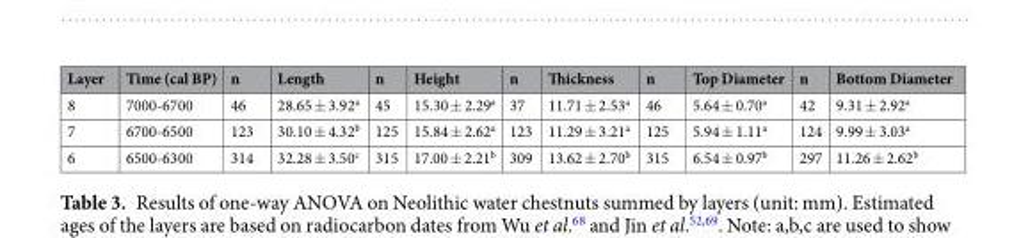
<table><thead><tr><td>Layer</td><td>Time (cal BP)</td><td>n</td><td>Length</td><td>n</td><td>Height</td><td>n</td><td>Thickness</td><td>n</td><td>Top Diameter</td><td>n</td><td>Bottom Diameter</td></tr></thead><tbody><tr><td>8</td><td>7000-6700</td><td>46</td><td>28.65 ± 3.92<sup>a</sup></td><td>45</td><td>15.30 ± 2.29<sup>a</sup></td><td>37</td><td>11.71 ± 2.53<sup>a</sup></td><td>46</td><td>5.64 ± 0.70<sup>a</sup></td><td>42</td><td>9.31 ± 2.92<sup>a</sup></td></tr><tr><td>7</td><td>6700-6500</td><td>123</td><td>30.10 ± 4.32<sup>b</sup></td><td>125</td><td>15.84 ± 2.62<sup>a</sup></td><td>123</td><td>11.29 ± 3.21<sup>a</sup></td><td>125</td><td>5.94 ± 1.11<sup>a</sup></td><td>124</td><td>9.99 ± 3.03<sup>a</sup></td></tr><tr><td>6</td><td>6500-6300</td><td>314</td><td>32.28 ± 3.50<sup>c</sup></td><td>315</td><td>17.00 ± 2.21<sup>b</sup></td><td>309</td><td>13.62 ± 2.70<sup>b</sup></td><td>315</td><td>6.54 ± 0.97<sup>b</sup></td><td>297</td><td>11.26 ± 2.62<sup>b</sup></td></tr></tbody></table>